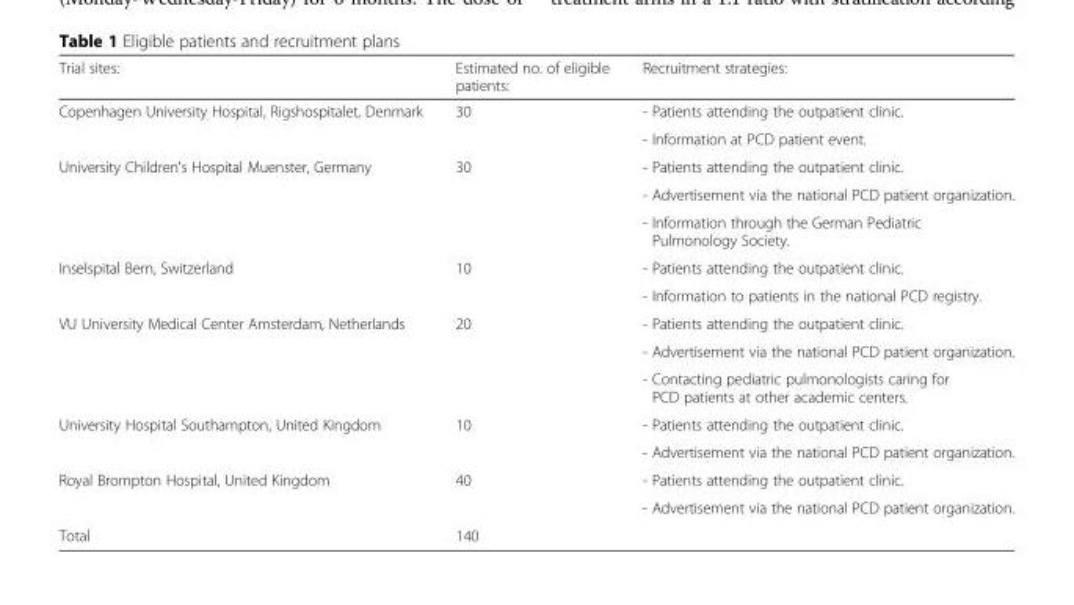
<table><thead><tr><td>Trial sites:</td><td>Estimated no. of eligible patients:</td><td>Recruitment strategies:</td></tr></thead><tbody><tr><td rowspan="2">Copenhagen University Hospital, Rigshospitalet, Denmark</td><td rowspan="2">30</td><td>- Patients attending the outpatient clinic.</td></tr><tr><td>- Information at PCD patient event.</td></tr><tr><td rowspan="3">University Children&#x27;s Hospital Muenster, Germany</td><td rowspan="3">30</td><td>- Patients attending the outpatient clinic.</td></tr><tr><td>- Advertisement via the national PCD patient organization.</td></tr><tr><td>- Information through the German Pediatric Pulmonology Society.</td></tr><tr><td rowspan="2">Inselspital Bern, Switzerland</td><td rowspan="2">10</td><td>- Patients attending the outpatient clinic.</td></tr><tr><td>- Information to patients in the national PCD registry.</td></tr><tr><td rowspan="3">VU University Medical Center Amsterdam, Netherlands</td><td rowspan="3">20</td><td>- Patients attending the outpatient clinic.</td></tr><tr><td>- Advertisement via the national PCD patient organization.</td></tr><tr><td>- Contacting pediatric pulmonologists caring for PCD patients at other academic centers.</td></tr><tr><td rowspan="2">University Hospital Southampton, United Kingdom</td><td rowspan="2">10</td><td>- Patients attending the outpatient clinic.</td></tr><tr><td>- Advertisement via the national PCD patient organization.</td></tr><tr><td rowspan="2">Royal Brompton Hospital, United Kingdom</td><td rowspan="2">40</td><td>- Patients attending the outpatient clinic.</td></tr><tr><td>- Advertisement via the national PCD patient organization.</td></tr><tr><td>Total</td><td>140</td><td></td></tr></tbody></table>